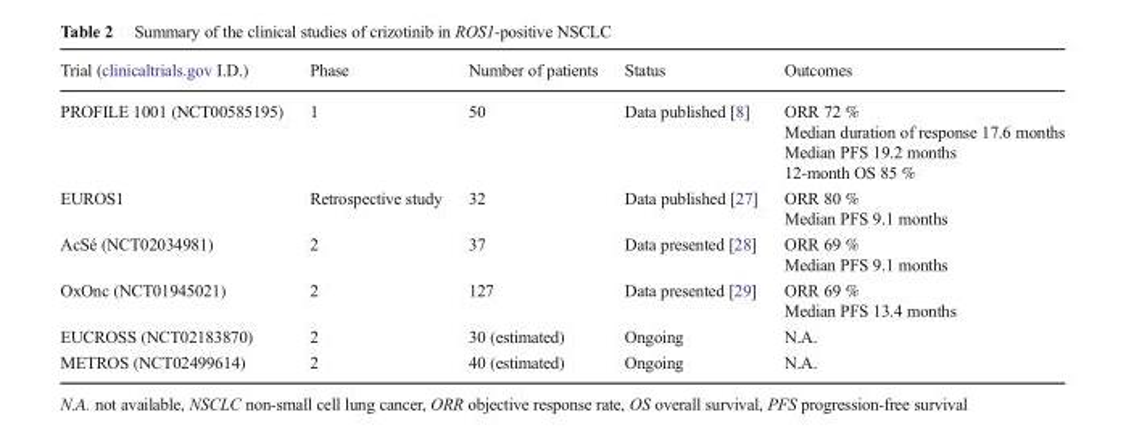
<table><thead><tr><td>Trial (clinicaltrials.gov I.D.)</td><td>Phase</td><td>Number of patients</td><td>Status</td><td>Outcomes</td></tr></thead><tbody><tr><td>PROFILE 1001 (NCT00585195)</td><td>1</td><td>50</td><td>Data published [8]</td><td>ORR 72 % Median duration of response 17.6 months Median PFS 19.2 months 12-month OS 85 %</td></tr><tr><td>EUROS1</td><td>Retrospective study</td><td>32</td><td>Data published [27]</td><td>ORR 80 % Median PFS 9.1 months</td></tr><tr><td>AcSé (NCT02034981)</td><td>2</td><td>37</td><td>Data presented [28]</td><td>ORR 69 % Median PFS 9.1 months</td></tr><tr><td>OxOnc (NCT01945021)</td><td>2</td><td>127</td><td>Data presented [29]</td><td>ORR 69 % Median PFS 13.4 months</td></tr><tr><td>EUCROSS (NCT02183870)</td><td>2</td><td>30 (estimated)</td><td>Ongoing</td><td>N.A.</td></tr><tr><td>METROS (NCT02499614)</td><td>2</td><td>40 (estimated)</td><td>Ongoing</td><td>N.A.</td></tr></tbody></table>